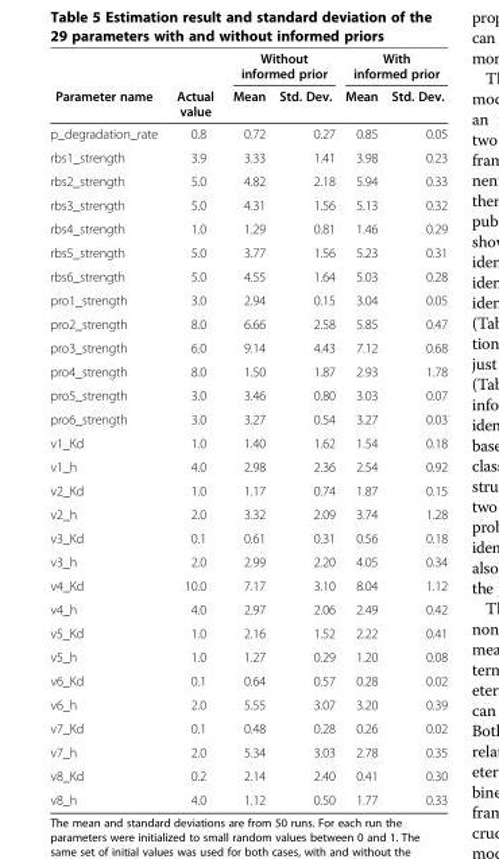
<table><thead><tr><td rowspan="2">Parameter name</td><td rowspan="2">Actual value</td><td colspan="2">Without informed prior</td><td colspan="2">With informed prior</td></tr><tr><td>Mean</td><td>Std. Dev.</td><td>Mean</td><td>Std. Dev.</td></tr></thead><tbody><tr><td>p_degradation_rate</td><td>0.8</td><td>0.72</td><td>0.27</td><td>0.85</td><td>0.05</td></tr><tr><td>rbs1_strength</td><td>3.9</td><td>3.33</td><td>1.41</td><td>3.98</td><td>0.23</td></tr><tr><td>rbs2_strength</td><td>5.0</td><td>4.82</td><td>2.18</td><td>5.94</td><td>0.33</td></tr><tr><td>rbs3_strength</td><td>5.0</td><td>4.31</td><td>1.56</td><td>5.13</td><td>0.32</td></tr><tr><td>rbs4_strength</td><td>1.0</td><td>1.29</td><td>0.81</td><td>1.46</td><td>0.29</td></tr><tr><td>rbs5_strength</td><td>5.0</td><td>3.77</td><td>1.56</td><td>5.23</td><td>0.31</td></tr><tr><td>rbs6_strength</td><td>5.0</td><td>4.55</td><td>1.64</td><td>5.03</td><td>0.28</td></tr><tr><td>pro1_strength</td><td>3.0</td><td>2.94</td><td>0.15</td><td>3.04</td><td>0.05</td></tr><tr><td>pro2_strength</td><td>8.0</td><td>6.66</td><td>2.58</td><td>5.85</td><td>0.47</td></tr><tr><td>pro3_strength</td><td>6.0</td><td>9.14</td><td>4.43</td><td>7.12</td><td>0.68</td></tr><tr><td>pro4_strength</td><td>8.0</td><td>1.50</td><td>1.87</td><td>2.93</td><td>1.78</td></tr><tr><td>pro5_strength</td><td>3.0</td><td>3.46</td><td>0.80</td><td>3.03</td><td>0.07</td></tr><tr><td>pro6_strength</td><td>3.0</td><td>3.27</td><td>0.54</td><td>3.27</td><td>0.03</td></tr><tr><td>v1_Kd</td><td>1.0</td><td>1.40</td><td>1.62</td><td>1.54</td><td>0.18</td></tr><tr><td>v1_h</td><td>4.0</td><td>2.98</td><td>2.36</td><td>2.54</td><td>0.92</td></tr><tr><td>v2_Kd</td><td>1.0</td><td>1.17</td><td>0.74</td><td>1.87</td><td>0.15</td></tr><tr><td>v2_h</td><td>2.0</td><td>3.32</td><td>2.09</td><td>3.74</td><td>1.28</td></tr><tr><td>v3_Kd</td><td>0.1</td><td>0.61</td><td>0.31</td><td>0.56</td><td>0.18</td></tr><tr><td>v3_h</td><td>2.0</td><td>2.99</td><td>2.20</td><td>4.05</td><td>0.34</td></tr><tr><td>v4_Kd</td><td>10.0</td><td>7.17</td><td>3.10</td><td>8.04</td><td>1.12</td></tr><tr><td>v4_h</td><td>4.0</td><td>2.97</td><td>2.06</td><td>2.49</td><td>0.42</td></tr><tr><td>v5_Kd</td><td>1.0</td><td>2.16</td><td>1.52</td><td>2.22</td><td>0.41</td></tr><tr><td>v5_h</td><td>1.0</td><td>1.27</td><td>0.29</td><td>1.20</td><td>0.08</td></tr><tr><td>v6_Kd</td><td>0.1</td><td>0.64</td><td>0.57</td><td>0.28</td><td>0.02</td></tr><tr><td>v6_h</td><td>2.0</td><td>5.55</td><td>3.07</td><td>3.20</td><td>0.39</td></tr><tr><td>v7_Kd</td><td>0.1</td><td>0.48</td><td>0.28</td><td>0.26</td><td>0.02</td></tr><tr><td>v7_h</td><td>2.0</td><td>5.34</td><td>3.03</td><td>2.78</td><td>0.35</td></tr><tr><td>v8_Kd</td><td>0.2</td><td>2.14</td><td>2.40</td><td>0.41</td><td>0.30</td></tr><tr><td>v8_h</td><td>4.0</td><td>1.12</td><td>0.50</td><td>1.77</td><td>0.33</td></tr></tbody></table>